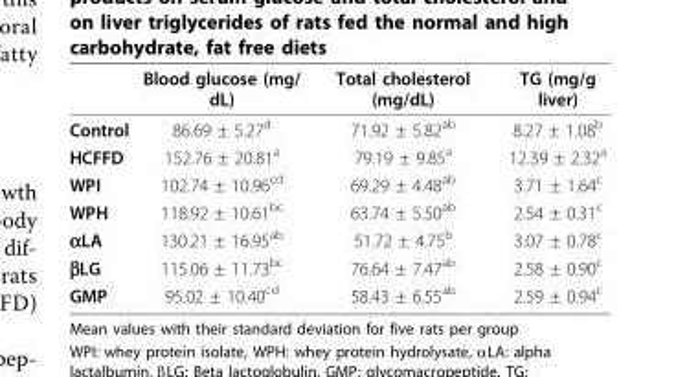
<table><thead><tr><td></td><td>Blood glucose (mg/ dL)</td><td>Total cholesterol (mg/dL)</td><td>TG (mg/g liver)</td></tr></thead><tbody><tr><td>Control</td><td>86.69 ± 5.27<sup>d</sup></td><td>71.92 ± 5.82<sup>ab</sup></td><td>8.27 ± 1.08<sup>b</sup></td></tr><tr><td>HCFFD</td><td>152.76 ± 20.81<sup>a</sup></td><td>79.19 ± 9.85<sup>a</sup></td><td>12.39 ± 2.32<sup>a</sup></td></tr><tr><td>WPI</td><td>102.74 ± 10.96<sup>cd</sup></td><td>69.29 ± 4.48<sup>ab</sup></td><td>3.71 ± 1.64<sup>c</sup></td></tr><tr><td>WPH</td><td>118.92 ± 10.61<sup>bc</sup></td><td>63.74 ± 5.50<sup>ab</sup></td><td>2.54 ± 0.31<sup>c</sup></td></tr><tr><td>αLA</td><td>130.21 ± 16.95<sup>ab</sup></td><td>51.72 ± 4.75<sup>b</sup></td><td>3.07 ± 0.78<sup>c</sup></td></tr><tr><td>βLG</td><td>115.06 ± 11.73<sup>bc</sup></td><td>76.64 ± 7.47<sup>ab</sup></td><td>2.58 ± 0.90<sup>c</sup></td></tr><tr><td>GMP</td><td>95.02 ± 10.40<sup>cd</sup></td><td>58.43 ± 6.55<sup>ab</sup></td><td>2.59 ± 0.94<sup>c</sup></td></tr></tbody></table>